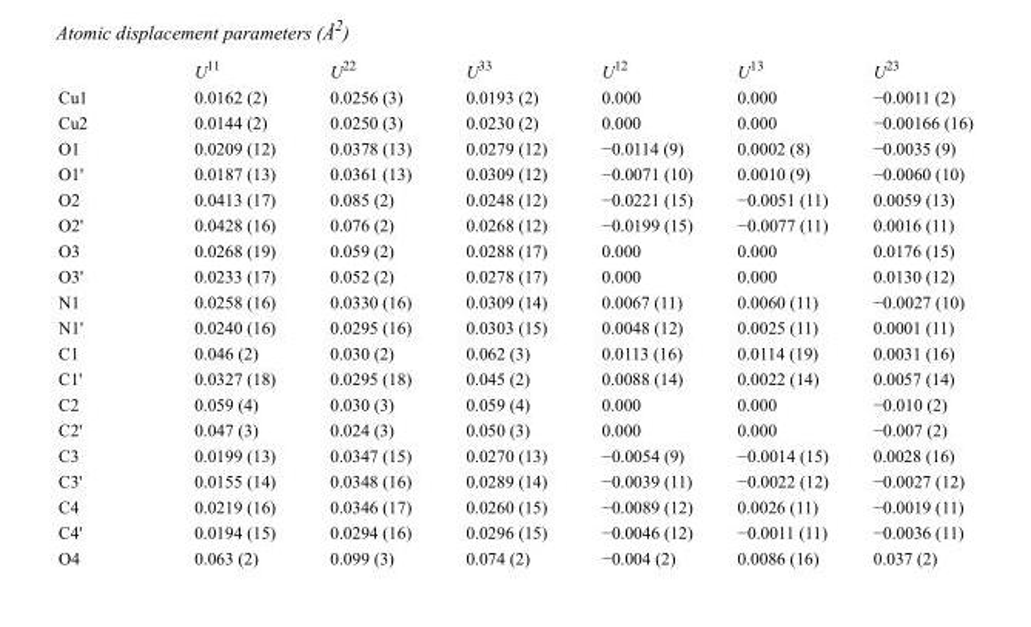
<table><thead><tr><td></td><td>U<sup>11</sup></td><td>U<sup>22</sup></td><td>U<sup>33</sup></td><td>U<sup>12</sup></td><td>U<sup>13</sup></td><td>U<sup>23</sup></td></tr></thead><tbody><tr><td>Cu1</td><td>0.0162 (2)</td><td>0.0256 (3)</td><td>0.0193 (2)</td><td>0.000</td><td>0.000</td><td>−0.0011 (2)</td></tr><tr><td>Cu2</td><td>0.0144 (2)</td><td>0.0250 (3)</td><td>0.0230 (2)</td><td>0.000</td><td>0.000</td><td>−0.00166 (16)</td></tr><tr><td>O1</td><td>0.0209 (12)</td><td>0.0378 (13)</td><td>0.0279 (12)</td><td>−0.0114 (9)</td><td>0.0002 (8)</td><td>−0.0035 (9)</td></tr><tr><td>O1&#x27;</td><td>0.0187 (13)</td><td>0.0361 (13)</td><td>0.0309 (12)</td><td>−0.0071 (10)</td><td>0.0010 (9)</td><td>−0.0060 (10)</td></tr><tr><td>O2</td><td>0.0413 (17)</td><td>0.085 (2)</td><td>0.0248 (12)</td><td>−0.0221 (15)</td><td>−0.0051 (11)</td><td>0.0059 (13)</td></tr><tr><td>O2&#x27;</td><td>0.0428 (16)</td><td>0.076 (2)</td><td>0.0268 (12)</td><td>−0.0199 (15)</td><td>−0.0077 (11)</td><td>0.0016 (11)</td></tr><tr><td>O3</td><td>0.0268 (19)</td><td>0.059 (2)</td><td>0.0288 (17)</td><td>0.000</td><td>0.000</td><td>0.0176 (15)</td></tr><tr><td>O3&#x27;</td><td>0.0233 (17)</td><td>0.052 (2)</td><td>0.0278 (17)</td><td>0.000</td><td>0.000</td><td>0.0130 (12)</td></tr><tr><td>N1</td><td>0.0258 (16)</td><td>0.0330 (16)</td><td>0.0309 (14)</td><td>0.0067 (11)</td><td>0.0060 (11)</td><td>−0.0027 (10)</td></tr><tr><td>N1&#x27;</td><td>0.0240 (16)</td><td>0.0295 (16)</td><td>0.0303 (15)</td><td>0.0048 (12)</td><td>0.0025 (11)</td><td>0.0001 (11)</td></tr><tr><td>C1</td><td>0.046 (2)</td><td>0.030 (2)</td><td>0.062 (3)</td><td>0.0113 (16)</td><td>0.0114 (19)</td><td>0.0031 (16)</td></tr><tr><td>C1&#x27;</td><td>0.0327 (18)</td><td>0.0295 (18)</td><td>0.045 (2)</td><td>0.0088 (14)</td><td>0.0022 (14)</td><td>0.0057 (14)</td></tr><tr><td>C2</td><td>0.059 (4)</td><td>0.030 (3)</td><td>0.059 (4)</td><td>0.000</td><td>0.000</td><td>−0.010 (2)</td></tr><tr><td>C2&#x27;</td><td>0.047 (3)</td><td>0.024 (3)</td><td>0.050 (3)</td><td>0.000</td><td>0.000</td><td>−0.007 (2)</td></tr><tr><td>C3</td><td>0.0199 (13)</td><td>0.0347 (15)</td><td>0.0270 (13)</td><td>−0.0054 (9)</td><td>−0.0014 (15)</td><td>0.0028 (16)</td></tr><tr><td>C3&#x27;</td><td>0.0155 (14)</td><td>0.0348 (16)</td><td>0.0289 (14)</td><td>−0.0039 (11)</td><td>−0.0022 (12)</td><td>−0.0027 (12)</td></tr><tr><td>C4</td><td>0.0219 (16)</td><td>0.0346 (17)</td><td>0.0260 (15)</td><td>−0.0089 (12)</td><td>0.0026 (11)</td><td>−0.0019 (11)</td></tr><tr><td>C4&#x27;</td><td>0.0194 (15)</td><td>0.0294 (16)</td><td>0.0296 (15)</td><td>−0.0046 (12)</td><td>−0.0011 (11)</td><td>−0.0036 (11)</td></tr><tr><td>O4</td><td>0.063 (2)</td><td>0.099 (3)</td><td>0.074 (2)</td><td>−0.004 (2)</td><td>0.0086 (16)</td><td>0.037 (2)</td></tr></tbody></table>